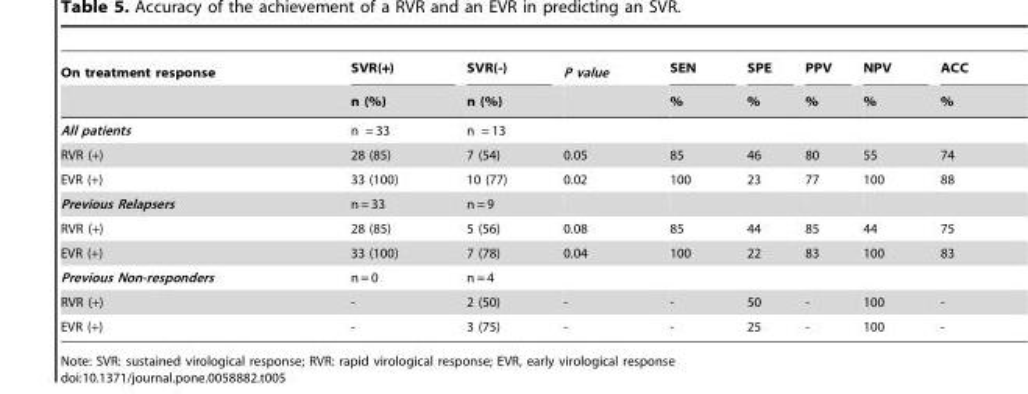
<table><thead><tr><td rowspan="2">On treatment response</td><td rowspan="2">SVR(+) n (%)</td><td rowspan="2">SVR(-) n (%)</td><td rowspan="2">P value</td><td rowspan="2">SEN %</td><td rowspan="2">SPE %</td><td rowspan="2">PPV %</td><td rowspan="2">NPV %</td><td rowspan="2">ACC %</td></tr><tr></tr></thead><tbody><tr><td>All patients</td><td>n = 33</td><td>n = 13</td><td></td><td></td><td></td><td></td><td></td><td></td></tr><tr><td>RVR (+)</td><td>28 (85)</td><td>7 (54)</td><td>0.05</td><td>85</td><td>46</td><td>80</td><td>55</td><td>74</td></tr><tr><td>EVR (+)</td><td>33 (100)</td><td>10 (77)</td><td>0.02</td><td>100</td><td>23</td><td>77</td><td>100</td><td>88</td></tr><tr><td>Previous Relapsers</td><td>n = 33</td><td>n = 9</td><td></td><td></td><td></td><td></td><td></td><td></td></tr><tr><td>RVR (+)</td><td>28 (85)</td><td>5 (56)</td><td>0.08</td><td>85</td><td>44</td><td>85</td><td>44</td><td>75</td></tr><tr><td>EVR (+)</td><td>33 (100)</td><td>7 (78)</td><td>0.04</td><td>100</td><td>22</td><td>83</td><td>100</td><td>83</td></tr><tr><td>Previous Non-responders</td><td>n = 0</td><td>n = 4</td><td></td><td></td><td></td><td></td><td></td><td></td></tr><tr><td>RVR (+)</td><td>-</td><td>2 (50)</td><td>-</td><td>-</td><td>50</td><td>-</td><td>100</td><td>-</td></tr><tr><td>EVR (+)</td><td>-</td><td>3 (75)</td><td>-</td><td>-</td><td>25</td><td>-</td><td>100</td><td>-</td></tr></tbody></table>